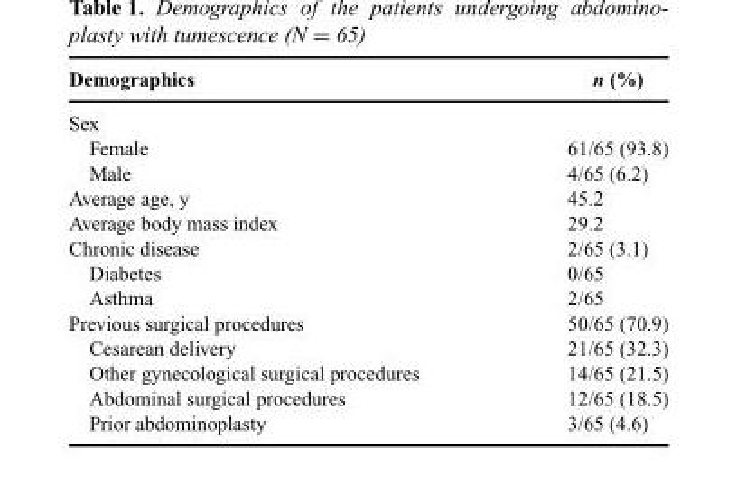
<table><thead><tr><td>Demographics</td><td>n (%)</td></tr></thead><tbody><tr><td colspan="2">Sex</td></tr><tr><td>Female</td><td>61/65 (93.8)</td></tr><tr><td>Male</td><td>4/65 (6.2)</td></tr><tr><td>Average age, y</td><td>45.2</td></tr><tr><td>Average body mass index</td><td>29.2</td></tr><tr><td>Chronic disease</td><td>2/65 (3.1)</td></tr><tr><td>Diabetes</td><td>0/65</td></tr><tr><td>Asthma</td><td>2/65</td></tr><tr><td>Previous surgical procedures</td><td>50/65 (70.9)</td></tr><tr><td>Cesarean delivery</td><td>21/65 (32.3)</td></tr><tr><td>Other gynecological surgical procedures</td><td>14/65 (21.5)</td></tr><tr><td>Abdominal surgical procedures</td><td>12/65 (18.5)</td></tr><tr><td>Prior abdominoplasty</td><td>3/65 (4.6)</td></tr></tbody></table>